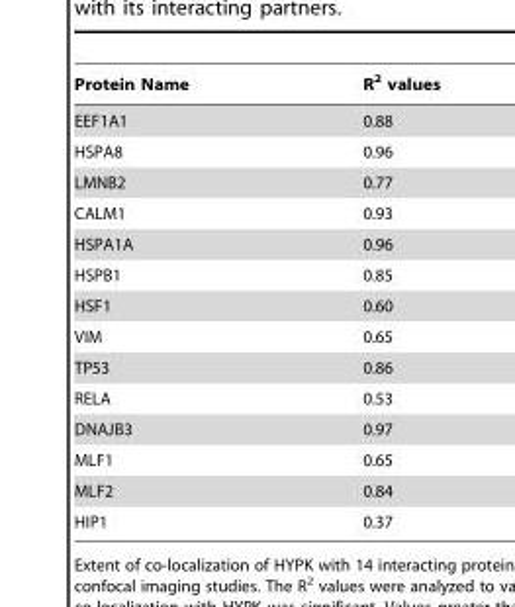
<table><thead><tr><td>Protein Name</td><td>R<sup>2</sup> values</td></tr></thead><tbody><tr><td>EEF1A1</td><td>0.88</td></tr><tr><td>HSPA8</td><td>0.96</td></tr><tr><td>LMNB2</td><td>0.77</td></tr><tr><td>CALM1</td><td>0.93</td></tr><tr><td>HSPA1A</td><td>0.96</td></tr><tr><td>HSPB1</td><td>0.85</td></tr><tr><td>HSF1</td><td>0.60</td></tr><tr><td>VIM</td><td>0.65</td></tr><tr><td>TP53</td><td>0.86</td></tr><tr><td>RELA</td><td>0.53</td></tr><tr><td>DNAJB3</td><td>0.97</td></tr><tr><td>MLF1</td><td>0.65</td></tr><tr><td>MLF2</td><td>0.84</td></tr><tr><td>HIP1</td><td>0.37</td></tr></tbody></table>